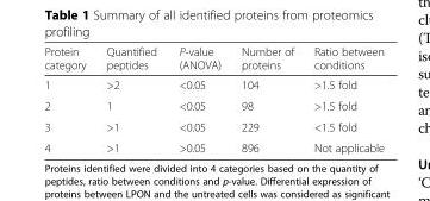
<table><thead><tr><td>Protein category</td><td>Quantified peptides</td><td>P-value (ANOVA)</td><td>Number of proteins</td><td>Ratio between conditions</td></tr></thead><tbody><tr><td>1</td><td>&gt;2</td><td>&lt;0.05</td><td>104</td><td>&gt;1.5 fold</td></tr><tr><td>2</td><td>1</td><td>&lt;0.05</td><td>98</td><td>&gt;1.5 fold</td></tr><tr><td>3</td><td>&gt;1</td><td>&lt;0.05</td><td>229</td><td>&lt;1.5 fold</td></tr><tr><td>4</td><td>&gt;1</td><td>&gt;0.05</td><td>896</td><td>Not applicable</td></tr></tbody></table>